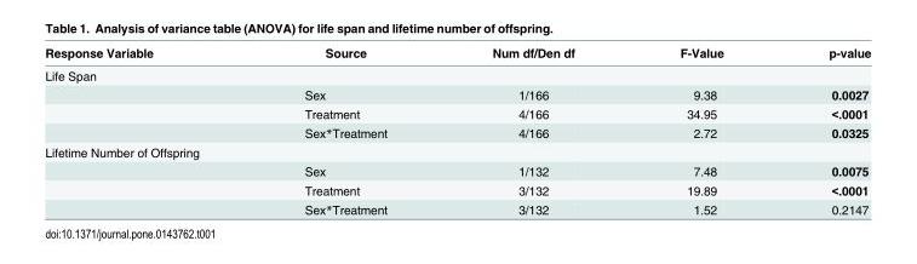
<table><thead><tr><td>Response Variable</td><td>Source</td><td>Num df/Den df</td><td>F-Value</td><td>p-value</td></tr></thead><tbody><tr><td colspan="5">Life Span</td></tr><tr><td></td><td>Sex</td><td>1/166</td><td>9.38</td><td>0.0027</td></tr><tr><td></td><td>Treatment</td><td>4/166</td><td>34.95</td><td>&lt;.0001</td></tr><tr><td></td><td>Sex*Treatment</td><td>4/166</td><td>2.72</td><td>0.0325</td></tr><tr><td colspan="5">Lifetime Number of Offspring</td></tr><tr><td></td><td>Sex</td><td>1/132</td><td>7.48</td><td>0.0075</td></tr><tr><td></td><td>Treatment</td><td>3/132</td><td>19.89</td><td>&lt;.0001</td></tr><tr><td></td><td>Sex*Treatment</td><td>3/132</td><td>1.52</td><td>0.2147</td></tr></tbody></table>